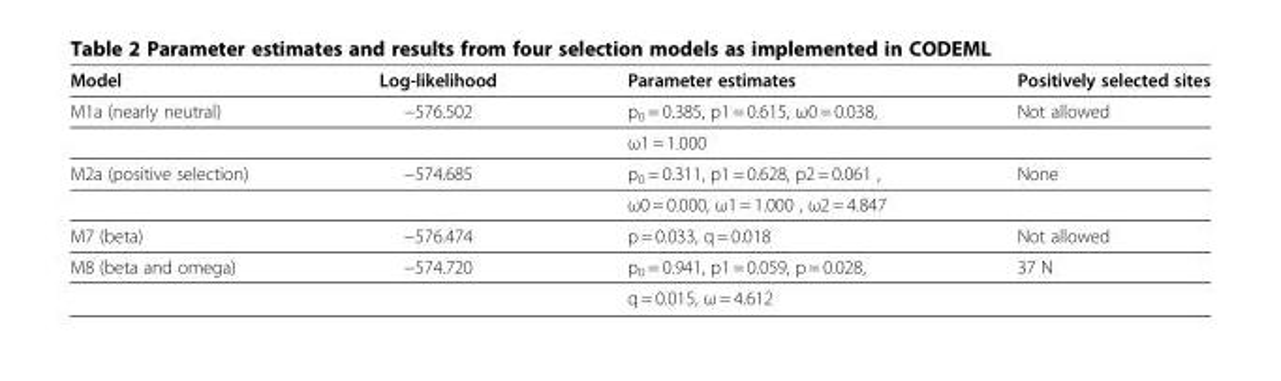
<table><thead><tr><td>Model</td><td>Log-likelihood</td><td>Parameter estimates</td><td>Positively selected sites</td></tr></thead><tbody><tr><td rowspan="2">M1a (nearly neutral)</td><td>−576.502</td><td>p<sub>0</sub> = 0.385, p1 = 0.615, ω0 = 0.038,</td><td>Not allowed</td></tr><tr><td></td><td>ω1 = 1.000</td><td></td></tr><tr><td rowspan="2">M2a (positive selection)</td><td>−574.685</td><td>p<sub>0</sub> = 0.311, p1 = 0.628, p2 = 0.061 ,</td><td>None</td></tr><tr><td></td><td>ω0 = 0.000, ω1 = 1.000 , ω2 = 4.847</td><td></td></tr><tr><td>M7 (beta)</td><td>−576.474</td><td>p = 0.033, q = 0.018</td><td>Not allowed</td></tr><tr><td rowspan="2">M8 (beta and omega)</td><td>−574.720</td><td>p<sub>0</sub> = 0.941, p1 = 0.059, p = 0.028,</td><td>37 N</td></tr><tr><td></td><td>q = 0.015, ω = 4.612</td><td></td></tr></tbody></table>